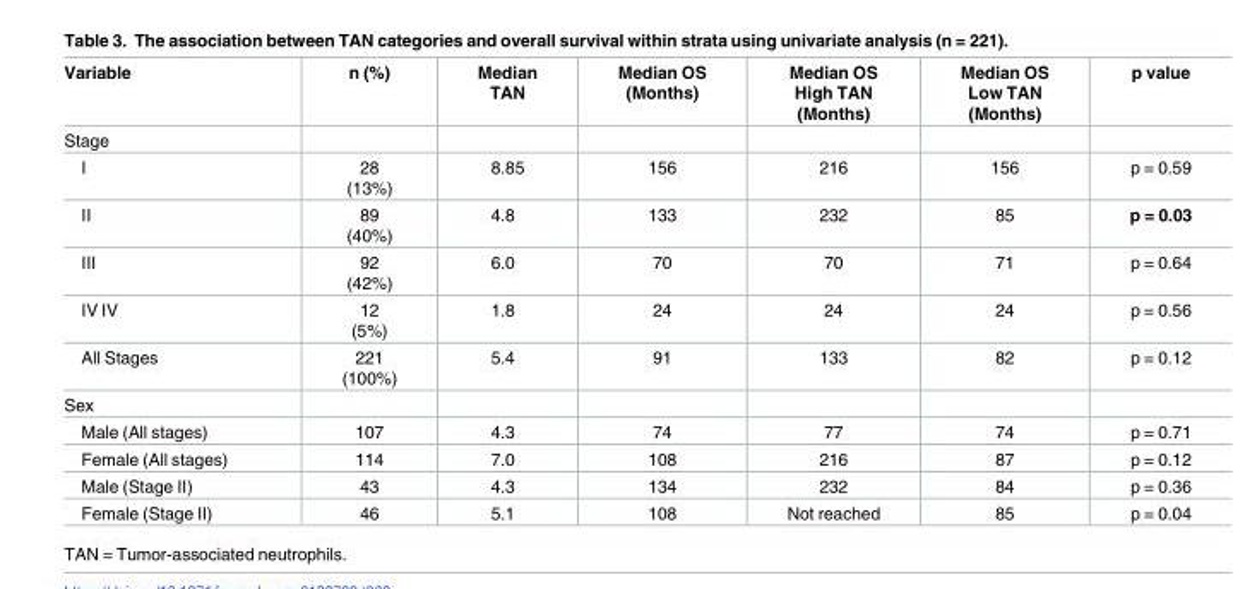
<table><thead><tr><td>Variable</td><td>n (%)</td><td>Median TAN</td><td>Median OS (Months)</td><td>Median OS High TAN (Months)</td><td>Median OS Low TAN (Months)</td><td>p value</td></tr></thead><tbody><tr><td colspan="7">Stage</td></tr><tr><td>I</td><td>28 (13%)</td><td>8.85</td><td>156</td><td>216</td><td>156</td><td>p = 0.59</td></tr><tr><td>II</td><td>89 (40%)</td><td>4.8</td><td>133</td><td>232</td><td>85</td><td>p = 0.03</td></tr><tr><td>III</td><td>92 (42%)</td><td>6.0</td><td>70</td><td>70</td><td>71</td><td>p = 0.64</td></tr><tr><td>IV IV</td><td>12 (5%)</td><td>1.8</td><td>24</td><td>24</td><td>24</td><td>p = 0.56</td></tr><tr><td>All Stages</td><td>221 (100%)</td><td>5.4</td><td>91</td><td>133</td><td>82</td><td>p = 0.12</td></tr><tr><td colspan="7">Sex</td></tr><tr><td>Male (All stages)</td><td>107</td><td>4.3</td><td>74</td><td>77</td><td>74</td><td>p = 0.71</td></tr><tr><td>Female (All stages)</td><td>114</td><td>7.0</td><td>108</td><td>216</td><td>87</td><td>p = 0.12</td></tr><tr><td>Male (Stage II)</td><td>43</td><td>4.3</td><td>134</td><td>232</td><td>84</td><td>p = 0.36</td></tr><tr><td>Female (Stage II)</td><td>46</td><td>5.1</td><td>108</td><td>Not reached</td><td>85</td><td>p = 0.04</td></tr></tbody></table>